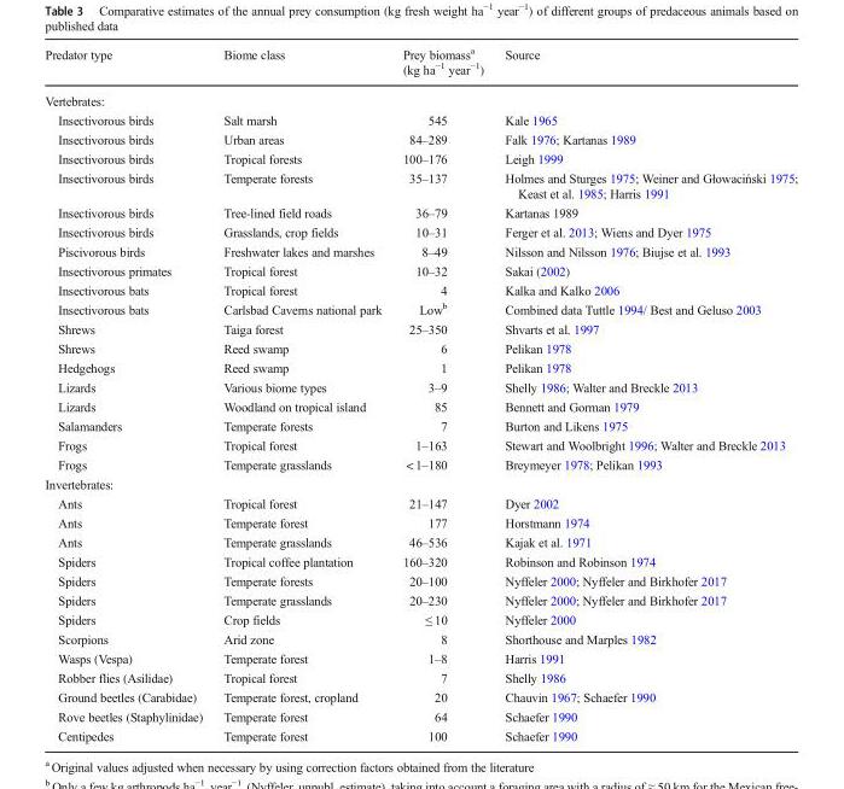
<table><thead><tr><td>Predator type</td><td>Biome class</td><td>Prey biomass<sup>a</sup> (kg ha<sup>−1</sup> year<sup>−1</sup>)</td><td>Source</td></tr></thead><tbody><tr><td colspan="4">Vertebrates:</td></tr><tr><td>Insectivorous birds</td><td>Salt marsh</td><td>545</td><td>Kale 1965</td></tr><tr><td>Insectivorous birds</td><td>Urban areas</td><td>84–289</td><td>Falk 1976; Kartanas 1989</td></tr><tr><td>Insectivorous birds</td><td>Tropical forests</td><td>100–176</td><td>Leigh 1999</td></tr><tr><td>Insectivorous birds</td><td>Temperate forests</td><td>35–137</td><td>Holmes and Sturges 1975; Weiner and Głowaciński 1975; Keast et al. 1985; Harris 1991</td></tr><tr><td>Insectivorous birds</td><td>Tree-lined field roads</td><td>36–79</td><td>Kartanas 1989</td></tr><tr><td>Insectivorous birds</td><td>Grasslands, crop fields</td><td>10–31</td><td>Ferger et al. 2013; Wiens and Dyer 1975</td></tr><tr><td>Piscivorous birds</td><td>Freshwater lakes and marshes</td><td>8–49</td><td>Nilsson and Nilsson 1976; Biujse et al. 1993</td></tr><tr><td>Insectivorous primates</td><td>Tropical forest</td><td>10–32</td><td>Sakai (2002)</td></tr><tr><td>Insectivorous bats</td><td>Tropical forest</td><td>4</td><td>Kalka and Kalko 2006</td></tr><tr><td>Insectivorous bats</td><td>Carlsbad Caverns national park</td><td>Low<sup>b</sup></td><td>Combined data Tuttle 1994/ Best and Geluso 2003</td></tr><tr><td>Shrews</td><td>Taiga forest</td><td>25–350</td><td>Shvarts et al. 1997</td></tr><tr><td>Shrews</td><td>Reed swamp</td><td>6</td><td>Pelikan 1978</td></tr><tr><td>Hedgehogs</td><td>Reed swamp</td><td>1</td><td>Pelikan 1978</td></tr><tr><td>Lizards</td><td>Various biome types</td><td>3–9</td><td>Shelly 1986; Walter and Breckle 2013</td></tr><tr><td>Lizards</td><td>Woodland on tropical island</td><td>85</td><td>Bennett and Gorman 1979</td></tr><tr><td>Salamanders</td><td>Temperate forests</td><td>7</td><td>Burton and Likens 1975</td></tr><tr><td>Frogs</td><td>Tropical forest</td><td>1–163</td><td>Stewart and Woolbright 1996; Walter and Breckle 2013</td></tr><tr><td>Frogs</td><td>Temperate grasslands</td><td>&lt; 1–180</td><td>Breymeyer 1978; Pelikan 1993</td></tr><tr><td colspan="4">Invertebrates:</td></tr><tr><td>Ants</td><td>Tropical forest</td><td>21–147</td><td>Dyer 2002</td></tr><tr><td>Ants</td><td>Temperate forest</td><td>177</td><td>Horstmann 1974</td></tr><tr><td>Ants</td><td>Temperate grasslands</td><td>46–536</td><td>Kajak et al. 1971</td></tr><tr><td>Spiders</td><td>Tropical coffee plantation</td><td>160–320</td><td>Robinson and Robinson 1974</td></tr><tr><td>Spiders</td><td>Temperate forests</td><td>20–100</td><td>Nyffeler 2000; Nyffeler and Birkhofer 2017</td></tr><tr><td>Spiders</td><td>Temperate grasslands</td><td>20–230</td><td>Nyffeler 2000; Nyffeler and Birkhofer 2017</td></tr><tr><td>Spiders</td><td>Crop fields</td><td>≤ 10</td><td>Nyffeler 2000</td></tr><tr><td>Scorpions</td><td>Arid zone</td><td>8</td><td>Shorthouse and Marples 1982</td></tr><tr><td>Wasps (Vespa)</td><td>Temperate forest</td><td>1–8</td><td>Harris 1991</td></tr><tr><td>Robber flies (Asilidae)</td><td>Tropical forest</td><td>7</td><td>Shelly 1986</td></tr><tr><td>Ground beetles (Carabidae)</td><td>Temperate forest, cropland</td><td>20</td><td>Chauvin 1967; Schaefer 1990</td></tr><tr><td>Rove beetles (Staphylinidae)</td><td>Temperate forest</td><td>64</td><td>Schaefer 1990</td></tr><tr><td>Centipedes</td><td>Temperate forest</td><td>100</td><td>Schaefer 1990</td></tr></tbody></table>